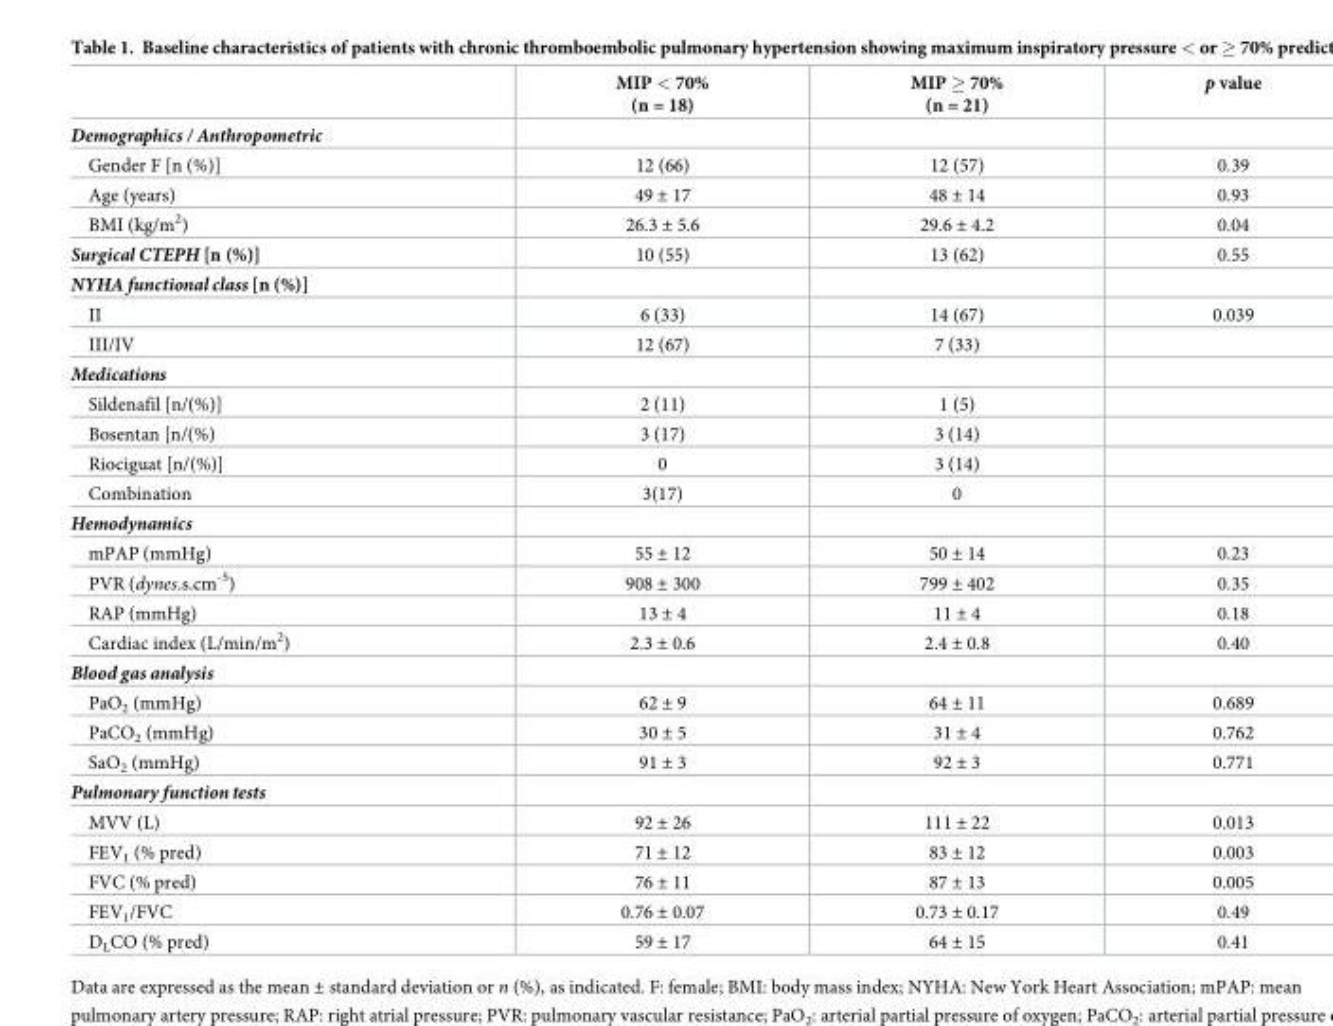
<table><thead><tr><td></td><td>MIP &lt; 70% (n = 18)</td><td>MIP ≥ 70% (n = 21)</td><td>p value</td></tr></thead><tbody><tr><td colspan="4">Demographics / Anthropometric</td></tr><tr><td>Gender F [n (%)]</td><td>12 (66)</td><td>12 (57)</td><td>0.39</td></tr><tr><td>Age (years)</td><td>49 ± 17</td><td>48 ± 14</td><td>0.93</td></tr><tr><td>BMI (kg/m<sup>2</sup>)</td><td>26.3 ± 5.6</td><td>29.6 ± 4.2</td><td>0.04</td></tr><tr><td>Surgical CTEPH [n (%)]</td><td>10 (55)</td><td>13 (62)</td><td>0.55</td></tr><tr><td colspan="4">NYHA functional class [n (%)]</td></tr><tr><td>II</td><td>6 (33)</td><td>14 (67)</td><td>0.039</td></tr><tr><td>III/IV</td><td>12 (67)</td><td>7 (33)</td><td></td></tr><tr><td colspan="4">Medications</td></tr><tr><td>Sildenafil [n/(%)]</td><td>2 (11)</td><td>1 (5)</td><td></td></tr><tr><td>Bosentan [n/(%)</td><td>3 (17)</td><td>3 (14)</td><td></td></tr><tr><td>Riociguat [n/(%)]</td><td>0</td><td>3 (14)</td><td></td></tr><tr><td>Combination</td><td>3(17)</td><td>0</td><td></td></tr><tr><td colspan="4">Hemodynamics</td></tr><tr><td>mPAP (mmHg)</td><td>55 ± 12</td><td>50 ± 14</td><td>0.23</td></tr><tr><td>PVR (dynes.s.cm<sup>-5</sup>)</td><td>908 ± 300</td><td>799 ± 402</td><td>0.35</td></tr><tr><td>RAP (mmHg)</td><td>13 ± 4</td><td>11 ± 4</td><td>0.18</td></tr><tr><td>Cardiac index (L/min/m<sup>2</sup>)</td><td>2.3 ± 0.6</td><td>2.4 ± 0.8</td><td>0.40</td></tr><tr><td colspan="4">Blood gas analysis</td></tr><tr><td>PaO<sub>2</sub> (mmHg)</td><td>62 ± 9</td><td>64 ± 11</td><td>0.689</td></tr><tr><td>PaCO<sub>2</sub> (mmHg)</td><td>30 ± 5</td><td>31 ± 4</td><td>0.762</td></tr><tr><td>SaO<sub>2</sub> (mmHg)</td><td>91 ± 3</td><td>92 ± 3</td><td>0.771</td></tr><tr><td colspan="4">Pulmonary function tests</td></tr><tr><td>MVV (L)</td><td>92 ± 26</td><td>111 ± 22</td><td>0.013</td></tr><tr><td>FEV<sub>1</sub> (% pred)</td><td>71 ± 12</td><td>83 ± 12</td><td>0.003</td></tr><tr><td>FVC (% pred)</td><td>76 ± 11</td><td>87 ± 13</td><td>0.005</td></tr><tr><td>FEV<sub>1</sub>/FVC</td><td>0.76 ± 0.07</td><td>0.73 ± 0.17</td><td>0.49</td></tr><tr><td>D<sub>L</sub>CO (% pred)</td><td>59 ± 17</td><td>64 ± 15</td><td>0.41</td></tr></tbody></table>